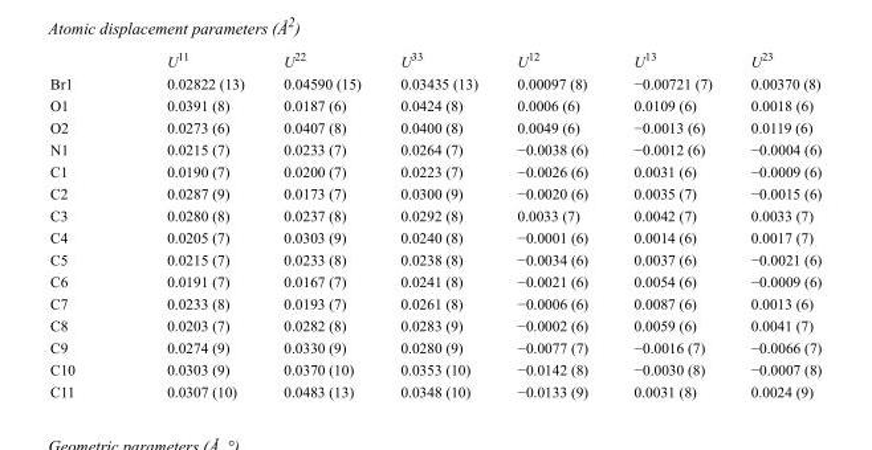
<table><thead><tr><td></td><td>U<sup>11</sup></td><td>U<sup>22</sup></td><td>U<sup>33</sup></td><td>U<sup>12</sup></td><td>U<sup>13</sup></td><td>U<sup>23</sup></td></tr></thead><tbody><tr><td>Br1</td><td>0.02822 (13)</td><td>0.04590 (15)</td><td>0.03435 (13)</td><td>0.00097 (8)</td><td>−0.00721 (7)</td><td>0.00370 (8)</td></tr><tr><td>O1</td><td>0.0391 (8)</td><td>0.0187 (6)</td><td>0.0424 (8)</td><td>0.0006 (6)</td><td>0.0109 (6)</td><td>0.0018 (6)</td></tr><tr><td>O2</td><td>0.0273 (6)</td><td>0.0407 (8)</td><td>0.0400 (8)</td><td>0.0049 (6)</td><td>−0.0013 (6)</td><td>0.0119 (6)</td></tr><tr><td>N1</td><td>0.0215 (7)</td><td>0.0233 (7)</td><td>0.0264 (7)</td><td>−0.0038 (6)</td><td>−0.0012 (6)</td><td>−0.0004 (6)</td></tr><tr><td>C1</td><td>0.0190 (7)</td><td>0.0200 (7)</td><td>0.0223 (7)</td><td>−0.0026 (6)</td><td>0.0031 (6)</td><td>−0.0009 (6)</td></tr><tr><td>C2</td><td>0.0287 (9)</td><td>0.0173 (7)</td><td>0.0300 (9)</td><td>−0.0020 (6)</td><td>0.0035 (7)</td><td>−0.0015 (6)</td></tr><tr><td>C3</td><td>0.0280 (8)</td><td>0.0237 (8)</td><td>0.0292 (8)</td><td>0.0033 (7)</td><td>0.0042 (7)</td><td>0.0033 (7)</td></tr><tr><td>C4</td><td>0.0205 (7)</td><td>0.0303 (9)</td><td>0.0240 (8)</td><td>−0.0001 (6)</td><td>0.0014 (6)</td><td>0.0017 (7)</td></tr><tr><td>C5</td><td>0.0215 (7)</td><td>0.0233 (8)</td><td>0.0238 (8)</td><td>−0.0034 (6)</td><td>0.0037 (6)</td><td>−0.0021 (6)</td></tr><tr><td>C6</td><td>0.0191 (7)</td><td>0.0167 (7)</td><td>0.0241 (8)</td><td>−0.0021 (6)</td><td>0.0054 (6)</td><td>−0.0009 (6)</td></tr><tr><td>C7</td><td>0.0233 (8)</td><td>0.0193 (7)</td><td>0.0261 (8)</td><td>−0.0006 (6)</td><td>0.0087 (6)</td><td>0.0013 (6)</td></tr><tr><td>C8</td><td>0.0203 (7)</td><td>0.0282 (8)</td><td>0.0283 (9)</td><td>−0.0002 (6)</td><td>0.0059 (6)</td><td>0.0041 (7)</td></tr><tr><td>C9</td><td>0.0274 (9)</td><td>0.0330 (9)</td><td>0.0280 (9)</td><td>−0.0077 (7)</td><td>−0.0016 (7)</td><td>−0.0066 (7)</td></tr><tr><td>C10</td><td>0.0303 (9)</td><td>0.0370 (10)</td><td>0.0353 (10)</td><td>−0.0142 (8)</td><td>−0.0030 (8)</td><td>−0.0007 (8)</td></tr><tr><td>C11</td><td>0.0307 (10)</td><td>0.0483 (13)</td><td>0.0348 (10)</td><td>−0.0133 (9)</td><td>0.0031 (8)</td><td>0.0024 (9)</td></tr></tbody></table>